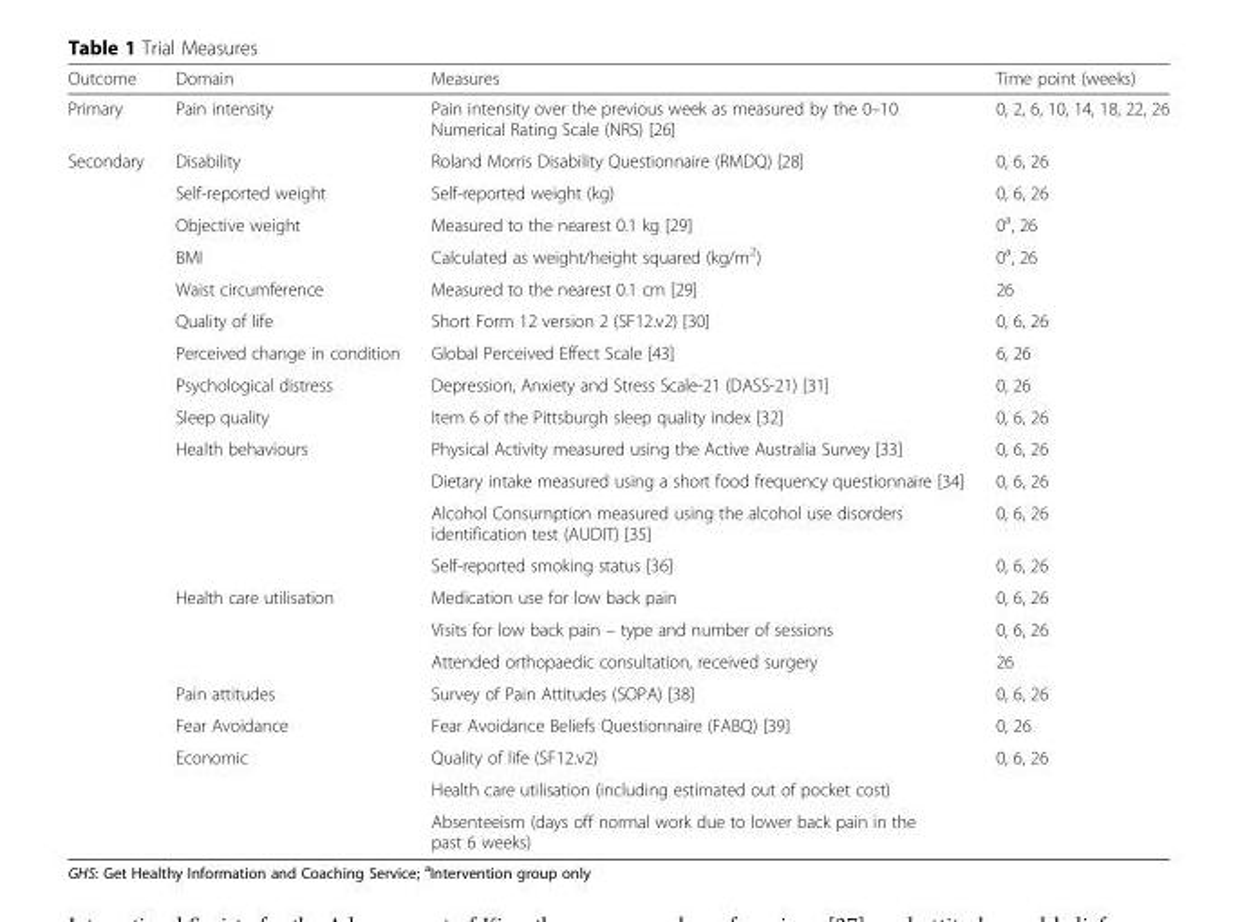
<table><thead><tr><td>Outcome</td><td>Domain</td><td>Measures</td><td>Time point (weeks)</td></tr></thead><tbody><tr><td>Primary</td><td>Pain intensity</td><td>Pain intensity over the previous week as measured by the 0–10 Numerical Rating Scale (NRS) [26]</td><td>0, 2, 6, 10, 14, 18, 22, 26</td></tr><tr><td rowspan="21">Secondary</td><td>Disability</td><td>Roland Morris Disability Questionnaire (RMDQ) [28]</td><td>0, 6, 26</td></tr><tr><td>Self-reported weight</td><td>Self-reported weight (kg)</td><td>0, 6, 26</td></tr><tr><td>Objective weight</td><td>Measured to the nearest 0.1 kg [29]</td><td>0<sup>a</sup>, 26</td></tr><tr><td>BMI</td><td>Calculated as weight/height squared (kg/m<sup>2</sup>)</td><td>0<sup>a</sup>, 26</td></tr><tr><td>Waist circumference</td><td>Measured to the nearest 0.1 cm [29]</td><td>26</td></tr><tr><td>Quality of life</td><td>Short Form 12 version 2 (SF12.v2) [30]</td><td>0, 6, 26</td></tr><tr><td>Perceived change in condition</td><td>Global Perceived Effect Scale [43]</td><td>6, 26</td></tr><tr><td>Psychological distress</td><td>Depression, Anxiety and Stress Scale-21 (DASS-21) [31]</td><td>0, 26</td></tr><tr><td>Sleep quality</td><td>Item 6 of the Pittsburgh sleep quality index [32]</td><td>0, 6, 26</td></tr><tr><td>Health behaviours</td><td>Physical Activity measured using the Active Australia Survey [33]</td><td>0, 6, 26</td></tr><tr><td></td><td>Dietary intake measured using a short food frequency questionnaire [34]</td><td>0, 6, 26</td></tr><tr><td></td><td>Alcohol Consumption measured using the alcohol use disorders identification test (AUDIT) [35]</td><td>0, 6, 26</td></tr><tr><td></td><td>Self-reported smoking status [36]</td><td>0, 6, 26</td></tr><tr><td rowspan="3">Health care utilisation</td><td>Medication use for low back pain</td><td>0, 6, 26</td></tr><tr><td>Visits for low back pain – type and number of sessions</td><td>0, 6, 26</td></tr><tr><td>Attended orthopaedic consultation, received surgery</td><td>26</td></tr><tr><td>Pain attitudes</td><td>Survey of Pain Attitudes (SOPA) [38]</td><td>0, 6, 26</td></tr><tr><td>Fear Avoidance</td><td>Fear Avoidance Beliefs Questionnaire (FABQ) [39]</td><td>0, 26</td></tr><tr><td rowspan="3">Economic</td><td>Quality of life (SF12.v2)</td><td rowspan="3">0, 6, 26</td></tr><tr><td>Health care utilisation (including estimated out of pocket cost)</td></tr><tr><td>Absenteeism (days off normal work due to lower back pain in the past 6 weeks)</td></tr></tbody></table>